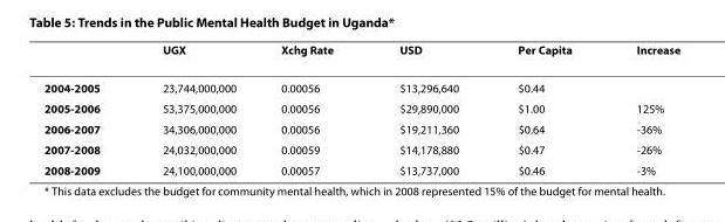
<table><thead><tr><td></td><td>UGX</td><td>Xchg Rate</td><td>USD</td><td>Per Capita</td><td>Increase</td></tr></thead><tbody><tr><td>2004-2005</td><td>23,744,000,000</td><td>0.00056</td><td>$13,296,640</td><td>$0.44</td><td></td></tr><tr><td>2005-2006</td><td>53,375,000,000</td><td>0.00056</td><td>$29,890,000</td><td>$1.00</td><td>125%</td></tr><tr><td>2006-2007</td><td>34,306,000,000</td><td>0.00056</td><td>$19,211,360</td><td>$0.64</td><td>-36%</td></tr><tr><td>2007-2008</td><td>24,032,000,000</td><td>0.00059</td><td>$14,178,880</td><td>$0.47</td><td>-26%</td></tr><tr><td>2008-2009</td><td>24,100,000,000</td><td>0.00057</td><td>$13,737,000</td><td>$0.46</td><td>-3%</td></tr></tbody></table>